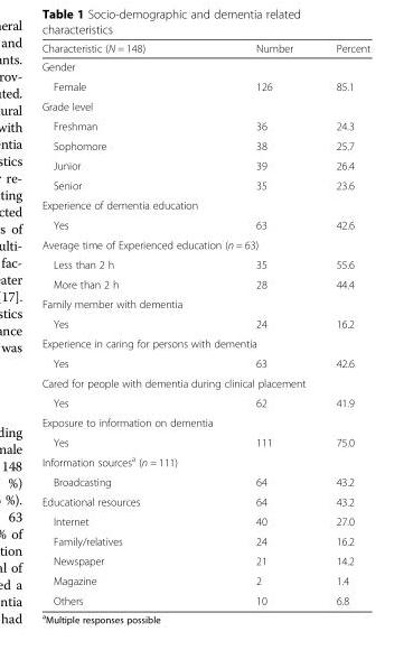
<table><thead><tr><td>Characteristic (N = 148)</td><td>Number</td><td>Percent</td></tr></thead><tbody><tr><td colspan="3">Gender</td></tr><tr><td>Female</td><td>126</td><td>85.1</td></tr><tr><td colspan="3">Grade level</td></tr><tr><td>Freshman</td><td>36</td><td>24.3</td></tr><tr><td>Sophomore</td><td>38</td><td>25.7</td></tr><tr><td>Junior</td><td>39</td><td>26.4</td></tr><tr><td>Senior</td><td>35</td><td>23.6</td></tr><tr><td colspan="3">Experience of dementia education</td></tr><tr><td>Yes</td><td>63</td><td>42.6</td></tr><tr><td colspan="3">Average time of Experienced education (n = 63)</td></tr><tr><td>Less than 2 h</td><td>35</td><td>55.6</td></tr><tr><td>More than 2 h</td><td>28</td><td>44.4</td></tr><tr><td colspan="3">Family member with dementia</td></tr><tr><td>Yes</td><td>24</td><td>16.2</td></tr><tr><td colspan="3">Experience in caring for persons with dementia</td></tr><tr><td>Yes</td><td>63</td><td>42.6</td></tr><tr><td colspan="3">Cared for people with dementia during clinical placement</td></tr><tr><td>Yes</td><td>62</td><td>41.9</td></tr><tr><td colspan="3">Exposure to information on dementia</td></tr><tr><td>Yes</td><td>111</td><td>75.0</td></tr><tr><td colspan="3">Information sources<sup>a</sup> (n = 111)</td></tr><tr><td>Broadcasting</td><td>64</td><td>43.2</td></tr><tr><td>Educational resources</td><td>64</td><td>43.2</td></tr><tr><td>Internet</td><td>40</td><td>27.0</td></tr><tr><td>Family/relatives</td><td>24</td><td>16.2</td></tr><tr><td>Newspaper</td><td>21</td><td>14.2</td></tr><tr><td>Magazine</td><td>2</td><td>1.4</td></tr><tr><td>Others</td><td>10</td><td>6.8</td></tr></tbody></table>